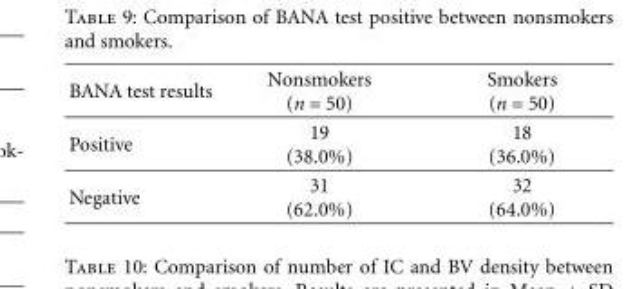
<table><thead><tr><td>BANA test results</td><td>Nonsmokers (n = 50)</td><td>Smokers (n = 50)</td></tr></thead><tbody><tr><td>Positive</td><td>19 (38.0%)</td><td>18 (36.0%)</td></tr><tr><td>Negative</td><td>31 (62.0%)</td><td>32 (64.0%)</td></tr></tbody></table>